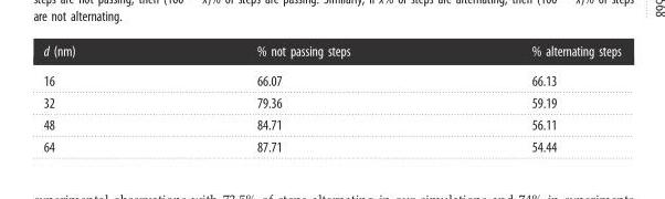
<table><thead><tr><td>d (nm)</td><td>% not passing steps</td><td>% alternating steps</td></tr></thead><tbody><tr><td>16</td><td>66.07</td><td>66.13</td></tr><tr><td>32</td><td>79.36</td><td>59.19</td></tr><tr><td>48</td><td>84.71</td><td>56.11</td></tr><tr><td>64</td><td>87.71</td><td>54.44</td></tr></tbody></table>